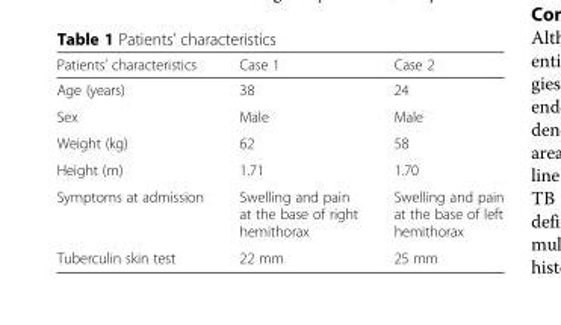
<table><thead><tr><td>Patients’ characteristics</td><td>Case 1</td><td>Case 2</td></tr></thead><tbody><tr><td>Age (years)</td><td>38</td><td>24</td></tr><tr><td>Sex</td><td>Male</td><td>Male</td></tr><tr><td>Weight (kg)</td><td>62</td><td>58</td></tr><tr><td>Height (m)</td><td>1.71</td><td>1.70</td></tr><tr><td>Symptoms at admission</td><td>Swelling and pain at the base of right hemithorax</td><td>Swelling and pain at the base of left hemithorax</td></tr><tr><td>Tuberculin skin test</td><td>22 mm</td><td>25 mm</td></tr></tbody></table>